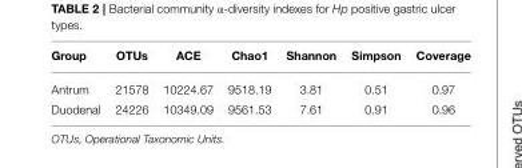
<table><thead><tr><td>Group</td><td>OTUs</td><td>ACE</td><td>Chao1</td><td>Shannon</td><td>Simpson</td><td>Coverage</td></tr></thead><tbody><tr><td>Antrum</td><td>21578</td><td>10224.67</td><td>9518.19</td><td>3.81</td><td>0.51</td><td>0.97</td></tr><tr><td>Duodenal</td><td>24226</td><td>10349.09</td><td>9561.53</td><td>7.61</td><td>0.91</td><td>0.96</td></tr></tbody></table>